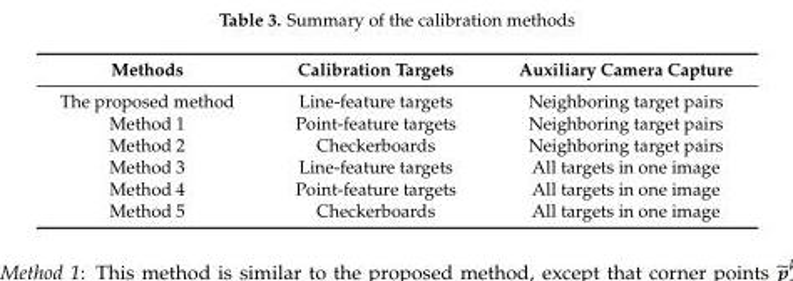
<table><thead><tr><td>Methods</td><td>Calibration Targets</td><td>Auxiliary Camera Capture</td></tr></thead><tbody><tr><td>The proposed method</td><td>Line-feature targets</td><td>Neighboring target pairs</td></tr><tr><td>Method 1</td><td>Point-feature targets</td><td>Neighboring target pairs</td></tr><tr><td>Method 2</td><td>Checkerboards</td><td>Neighboring target pairs</td></tr><tr><td>Method 3</td><td>Line-feature targets</td><td>All targets in one image</td></tr><tr><td>Method 4</td><td>Point-feature targets</td><td>All targets in one image</td></tr><tr><td>Method 5</td><td>Checkerboards</td><td>All targets in one image</td></tr></tbody></table>